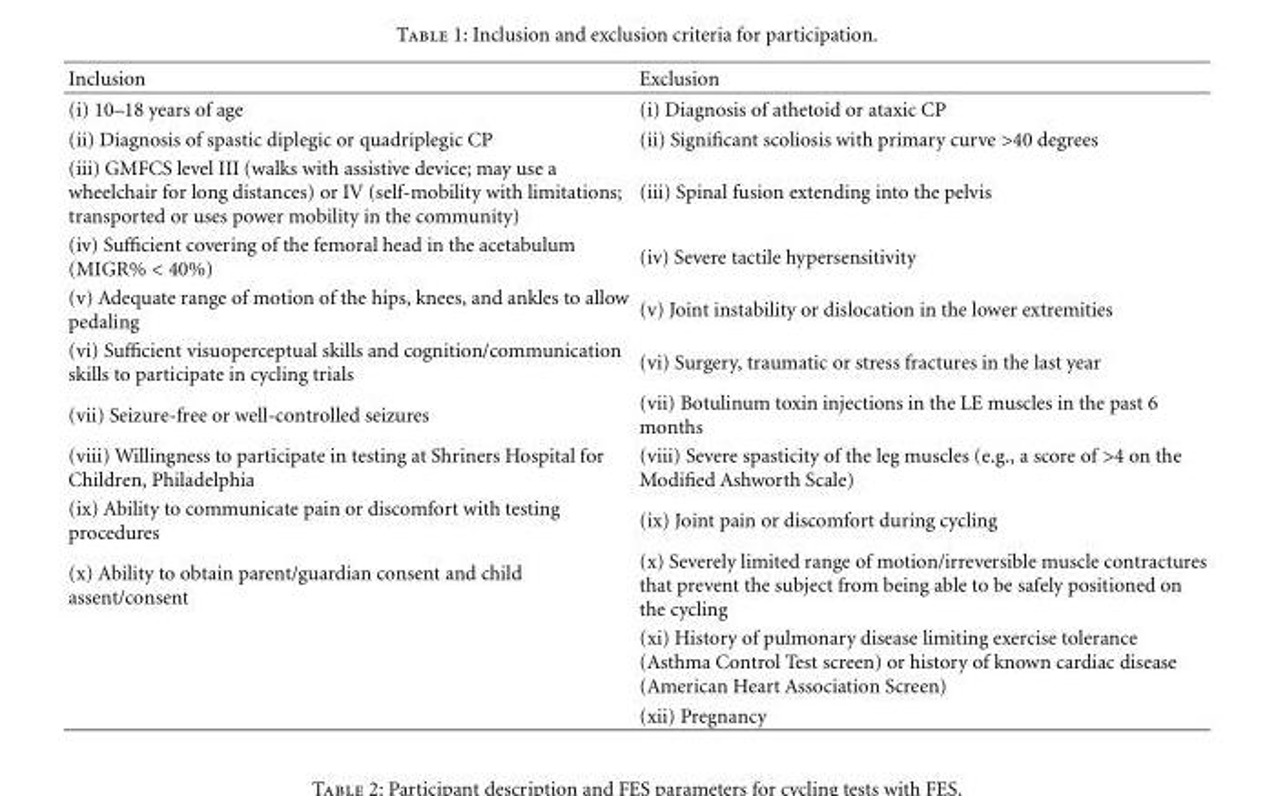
<table><thead><tr><td>Inclusion</td><td>Exclusion</td></tr></thead><tbody><tr><td>(i) 10–18 years of age</td><td>(i) Diagnosis of athetoid or ataxic CP</td></tr><tr><td>(ii) Diagnosis of spastic diplegic or quadriplegic CP</td><td>(ii) Significant scoliosis with primary curve &gt;40 degrees</td></tr><tr><td>(iii) GMFCS level III (walks with assistive device; may use a wheelchair for long distances) or IV (self-mobility with limitations; transported or uses power mobility in the community)</td><td>(iii) Spinal fusion extending into the pelvis</td></tr><tr><td>(iv) Sufficient covering of the femoral head in the acetabulum (MIGR% &lt; 40%)</td><td>(iv) Severe tactile hypersensitivity</td></tr><tr><td>(v) Adequate range of motion of the hips, knees, and ankles to allow pedaling</td><td>(v) Joint instability or dislocation in the lower extremities</td></tr><tr><td>(vi) Sufficient visuoperceptual skills and cognition/communication skills to participate in cycling trials</td><td>(vi) Surgery, traumatic or stress fractures in the last year</td></tr><tr><td>(vii) Seizure-free or well-controlled seizures</td><td>(vii) Botulinum toxin injections in the LE muscles in the past 6 months</td></tr><tr><td>(viii) Willingness to participate in testing at Shriners Hospital for Children, Philadelphia</td><td>(viii) Severe spasticity of the leg muscles (e.g., a score of &gt;4 on the Modified Ashworth Scale)</td></tr><tr><td>(ix) Ability to communicate pain or discomfort with testing procedures</td><td>(ix) Joint pain or discomfort during cycling</td></tr><tr><td rowspan="3">(x) Ability to obtain parent/guardian consent and child assent/consent</td><td>(x) Severely limited range of motion/irreversible muscle contractures that prevent the subject from being able to be safely positioned on the cycling</td></tr><tr><td>(xi) History of pulmonary disease limiting exercise tolerance (Asthma Control Test screen) or history of known cardiac disease (American Heart Association Screen)</td></tr><tr><td>(xii) Pregnancy</td></tr></tbody></table>